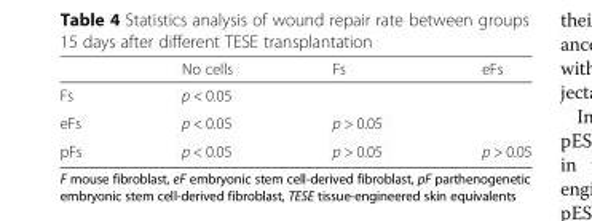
<table><thead><tr><td></td><td>No cells</td><td>Fs</td><td>eFs</td></tr></thead><tbody><tr><td>Fs</td><td>p &lt; 0.05</td><td></td><td></td></tr><tr><td>eFs</td><td>p &lt; 0.05</td><td>p &gt; 0.05</td><td></td></tr><tr><td>pFs</td><td>p &lt; 0.05</td><td>p &gt; 0.05</td><td>p &gt; 0.05</td></tr></tbody></table>